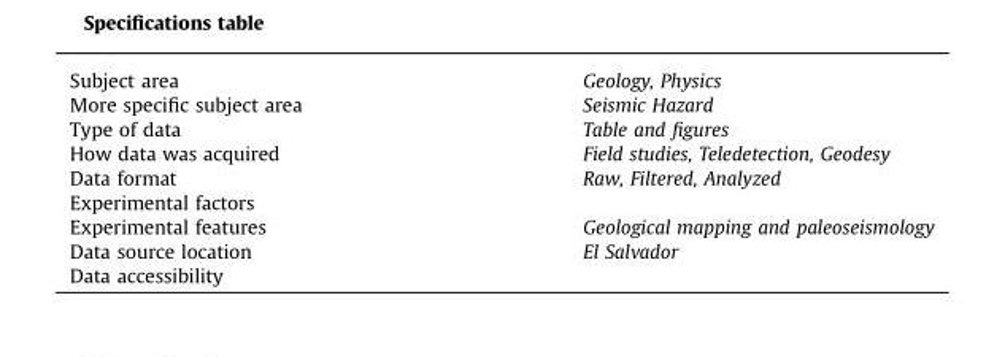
<table><tbody><tr><td>Subject area</td><td>Geology, Physics</td></tr><tr><td>More specific subject area</td><td>Seismic Hazard</td></tr><tr><td>Type of data</td><td>Table and figures</td></tr><tr><td>How data was acquired</td><td>Field studies, Teledetection, Geodesy</td></tr><tr><td>Data format</td><td>Raw, Filtered, Analyzed</td></tr><tr><td colspan="2">Experimental factors</td></tr><tr><td>Experimental features</td><td>Geological mapping and paleoseismology</td></tr><tr><td>Data source location</td><td>El Salvador</td></tr><tr><td>Data accessibility</td><td></td></tr></tbody></table>